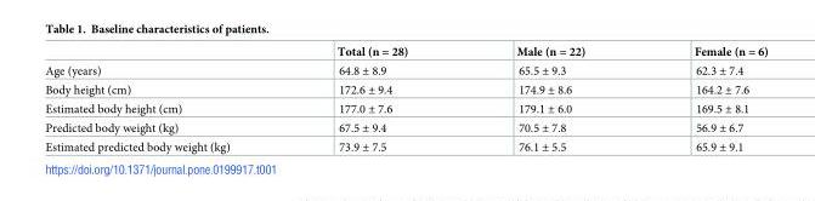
<table><thead><tr><td></td><td>Total (n = 28)</td><td>Male (n = 22)</td><td>Female (n = 6)</td></tr></thead><tbody><tr><td>Age (years)</td><td>64.8 ± 8.9</td><td>65.5 ± 9.3</td><td>62.3 ± 7.4</td></tr><tr><td>Body height (cm)</td><td>172.6 ± 9.4</td><td>174.9 ± 8.6</td><td>164.2 ± 7.6</td></tr><tr><td>Estimated body height (cm)</td><td>177.0 ± 7.6</td><td>179.1 ± 6.0</td><td>169.5 ± 8.1</td></tr><tr><td>Predicted body weight (kg)</td><td>67.5 ± 9.4</td><td>70.5 ± 7.8</td><td>56.9 ± 6.7</td></tr><tr><td>Estimated predicted body weight (kg)</td><td>73.9 ± 7.5</td><td>76.1 ± 5.5</td><td>65.9 ± 9.1</td></tr></tbody></table>